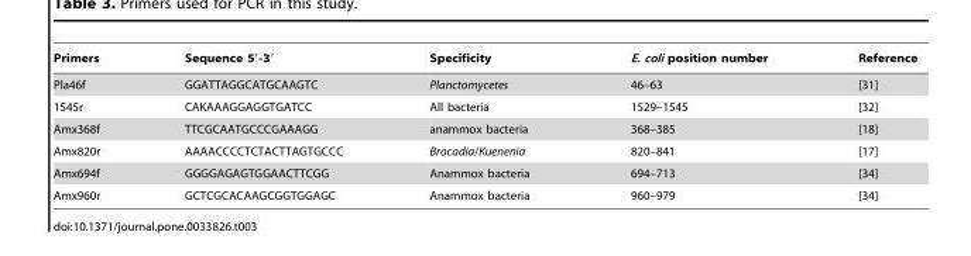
<table><thead><tr><td>Primers</td><td>Sequence 5′-3′</td><td>Specificity</td><td>E. coli position number</td><td>Reference</td></tr></thead><tbody><tr><td>Pla46f</td><td>GGATTAGGCATGCAAGTC</td><td>Planctomycetes</td><td>46–63</td><td>[31]</td></tr><tr><td>1545r</td><td>CAKAAAGGAGGTGATCC</td><td>All bacteria</td><td>1529–1545</td><td>[32]</td></tr><tr><td>Amx368f</td><td>TTCGCAATGCCCGAAAGG</td><td>anammox bacteria</td><td>368–385</td><td>[18]</td></tr><tr><td>Amx820r</td><td>AAAACCCCTCTACTTAGTGCCC</td><td>Brocadia/Kuenenia</td><td>820–841</td><td>[17]</td></tr><tr><td>Amx694f</td><td>GGGGAGAGTGGAACTTCGG</td><td>Anammox bacteria</td><td>694–713</td><td>[34]</td></tr><tr><td>Amx960r</td><td>GCTCGCACAAGCGGTGGAGC</td><td>Anammox bacteria</td><td>960–979</td><td>[34]</td></tr></tbody></table>